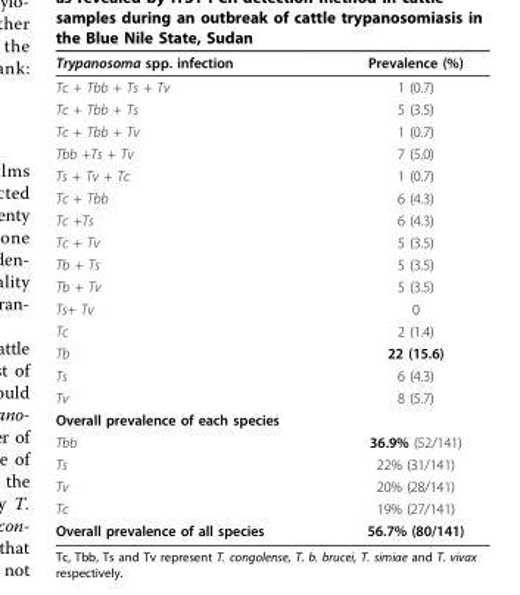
<table><thead><tr><td>Trypanosoma spp. infection</td><td>Prevalence (%)</td></tr></thead><tbody><tr><td>Tc + Tbb + Ts + Tv</td><td>1 (0.7)</td></tr><tr><td>Tc + Tbb + Ts</td><td>5 (3.5)</td></tr><tr><td>Tc + Tbb + Tv</td><td>1 (0.7)</td></tr><tr><td>Tbb +Ts + Tv</td><td>7 (5.0)</td></tr><tr><td>Ts + Tv + Tc</td><td>1 (0.7)</td></tr><tr><td>Tc + Tbb</td><td>6 (4.3)</td></tr><tr><td>Tc +Ts</td><td>6 (4.3)</td></tr><tr><td>Tc + Tv</td><td>5 (3.5)</td></tr><tr><td>Tb + Ts</td><td>5 (3.5)</td></tr><tr><td>Tb + Tv</td><td>5 (3.5)</td></tr><tr><td>Ts+ Tv</td><td>0</td></tr><tr><td>Tc</td><td>2 (1.4)</td></tr><tr><td>Tb</td><td>22 (15.6)</td></tr><tr><td>Ts</td><td>6 (4.3)</td></tr><tr><td>Tv</td><td>8 (5.7)</td></tr><tr><td colspan="2">Overall prevalence of each species</td></tr><tr><td>Tbb</td><td>36.9% (52/141)</td></tr><tr><td>Ts</td><td>22% (31/141)</td></tr><tr><td>Tv</td><td>20% (28/141)</td></tr><tr><td>Tc</td><td>19% (27/141)</td></tr><tr><td>Overall prevalence of all species</td><td>56.7% (80/141)</td></tr></tbody></table>